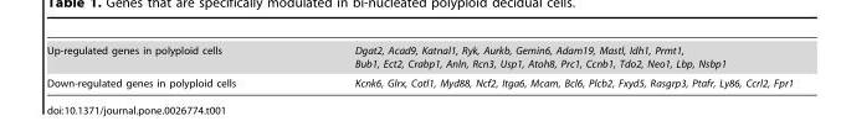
<table><tbody><tr><td>Up-regulated genes in polyploid cells</td><td>Dgat2, Acad9, Katnal1, Ryk, Aurkb, Gemin6, Adam19, Mastl, Idh1, Prmt1, Bub1, Ect2, Crabp1, Anln, Rcn3, Usp1, Atoh8, Prc1, Ccnb1, Tdo2, Neo1, Lbp, Nsbp1</td></tr><tr><td>Down-regulated genes in polyploid cells</td><td>Kcnk6, Glrx, Cotl1, Myd88, Ncf2, Itga6, Mcam, Bcl6, Plcb2, Fxyd5, Rasgrp3, Ptafr, Ly86, Ccrl2, Fpr1</td></tr></tbody></table>